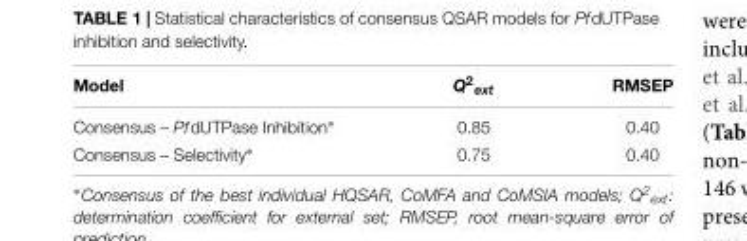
<table><thead><tr><td>Model</td><td>Q<sup>2</sup><sub>ext</sub></td><td>RMSEP</td></tr></thead><tbody><tr><td>Consensus – PfdUTPase Inhibition∗</td><td>0.85</td><td>0.40</td></tr><tr><td>Consensus – Selectivity∗</td><td>0.75</td><td>0.40</td></tr></tbody></table>